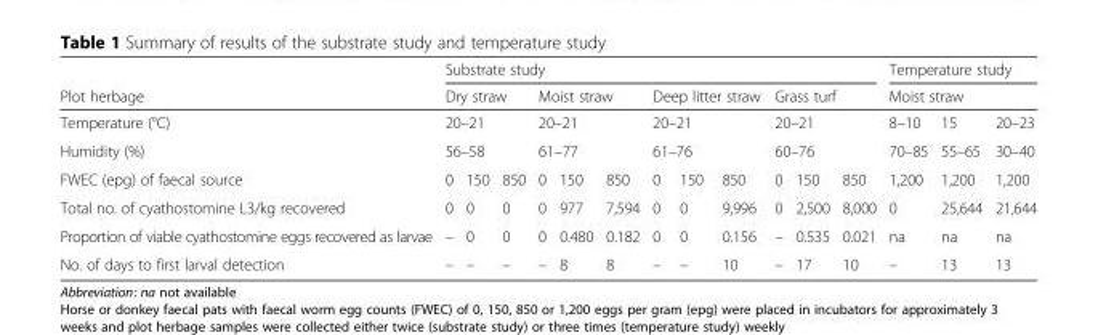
<table><thead><tr><td rowspan="5">Plot herbage Temperature (°C) Humidity (%) FWEC (epg) of faecal source</td><td colspan="12">Substrate study</td><td rowspan="2" colspan="3">Temperature study Moist straw</td></tr><tr><td rowspan="3" colspan="3">Dry straw 20–21 56–58</td><td rowspan="3" colspan="3">Moist straw 20–21 61–77</td><td rowspan="3" colspan="3">Deep litter straw 20–21 61–76</td><td rowspan="3" colspan="3">Grass turf 20–21 60–76</td></tr><tr><td rowspan="3">8–10 70–85 1,200</td><td rowspan="3">15 55–65 1,200</td><td rowspan="3">20–23 30–40 1,200</td></tr><tr></tr><tr><td>0</td><td>150</td><td>850</td><td>0</td><td>150</td><td>850</td><td>0</td><td>150</td><td>850</td><td>0</td><td>150</td><td>850</td></tr></thead><tbody><tr><td>Total no. of cyathostomine L3/kg recovered</td><td>0</td><td>0</td><td>0</td><td>0</td><td>977</td><td>7,594</td><td>0</td><td>0</td><td>9,996</td><td>0</td><td>2,500</td><td>8,000</td><td>0</td><td>25,644</td><td>21,644</td></tr><tr><td>Proportion of viable cyathostomine eggs recovered as larvae</td><td>–</td><td>0</td><td>0</td><td>0</td><td>0.480</td><td>0.182</td><td>0</td><td>0</td><td>0.156</td><td>–</td><td>0.535</td><td>0.021</td><td>na</td><td>na</td><td>na</td></tr><tr><td>No. of days to first larval detection</td><td>–</td><td>–</td><td>–</td><td>–</td><td>8</td><td>8</td><td>–</td><td>–</td><td>10</td><td>–</td><td>17</td><td>10</td><td>–</td><td>13</td><td>13</td></tr></tbody></table>